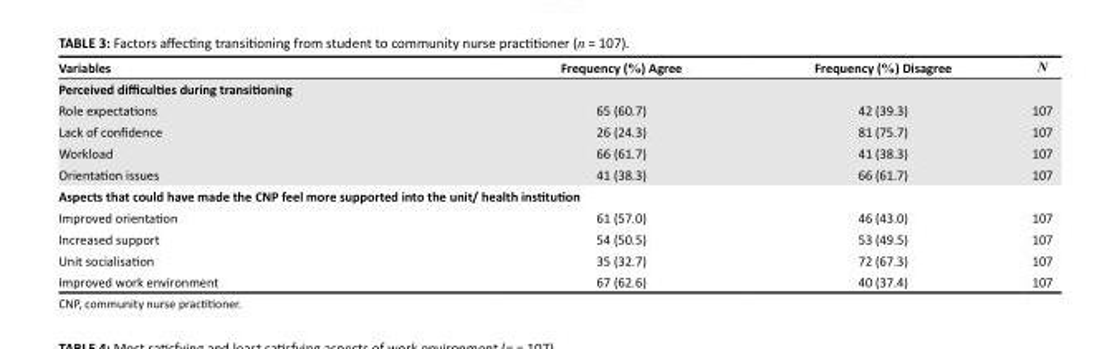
<table><thead><tr><td>Variables</td><td>Frequency (%) Agree</td><td>Frequency (%) Disagree</td><td>N</td></tr></thead><tbody><tr><td colspan="4">Perceived difficulties during transitioning</td></tr><tr><td>Role expectations</td><td>65 (60.7)</td><td>42 (39.3)</td><td>107</td></tr><tr><td>Lack of confidence</td><td>26 (24.3)</td><td>81 (75.7)</td><td>107</td></tr><tr><td>Workload</td><td>66 (61.7)</td><td>41 (38.3)</td><td>107</td></tr><tr><td>Orientation issues</td><td>41 (38.3)</td><td>66 (61.7)</td><td>107</td></tr><tr><td colspan="4">Aspects that could have made the CNP feel more supported into the unit/ health institution</td></tr><tr><td>Improved orientation</td><td>61 (57.0)</td><td>46 (43.0)</td><td>107</td></tr><tr><td>Increased support</td><td>54 (50.5)</td><td>53 (49.5)</td><td>107</td></tr><tr><td>Unit socialisation</td><td>35 (32.7)</td><td>72 (67.3)</td><td>107</td></tr><tr><td>Improved work environment</td><td>67 (62.6)</td><td>40 (37.4)</td><td>107</td></tr></tbody></table>